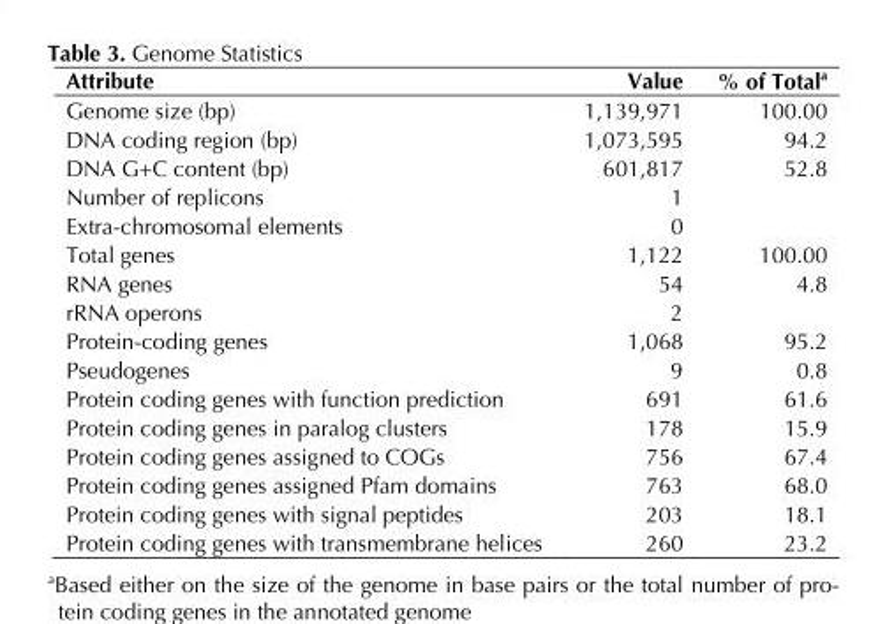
<table><thead><tr><td>Attribute</td><td>Value</td><td>% of Total<sup>a</sup></td></tr></thead><tbody><tr><td>Genome size (bp)</td><td>1,139,971</td><td>100.00</td></tr><tr><td>DNA coding region (bp)</td><td>1,073,595</td><td>94.2</td></tr><tr><td>DNA G+C content (bp)</td><td>601,817</td><td>52.8</td></tr><tr><td>Number of replicons</td><td>1</td><td></td></tr><tr><td>Extra-chromosomal elements</td><td>0</td><td></td></tr><tr><td>Total genes</td><td>1,122</td><td>100.00</td></tr><tr><td>RNA genes</td><td>54</td><td>4.8</td></tr><tr><td>rRNA operons</td><td>2</td><td></td></tr><tr><td>Protein-coding genes</td><td>1,068</td><td>95.2</td></tr><tr><td>Pseudogenes</td><td>9</td><td>0.8</td></tr><tr><td>Protein coding genes with function prediction</td><td>691</td><td>61.6</td></tr><tr><td>Protein coding genes in paralog clusters</td><td>178</td><td>15.9</td></tr><tr><td>Protein coding genes assigned to COGs</td><td>756</td><td>67.4</td></tr><tr><td>Protein coding genes assigned Pfam domains</td><td>763</td><td>68.0</td></tr><tr><td>Protein coding genes with signal peptides</td><td>203</td><td>18.1</td></tr><tr><td>Protein coding genes with transmembrane helices</td><td>260</td><td>23.2</td></tr></tbody></table>